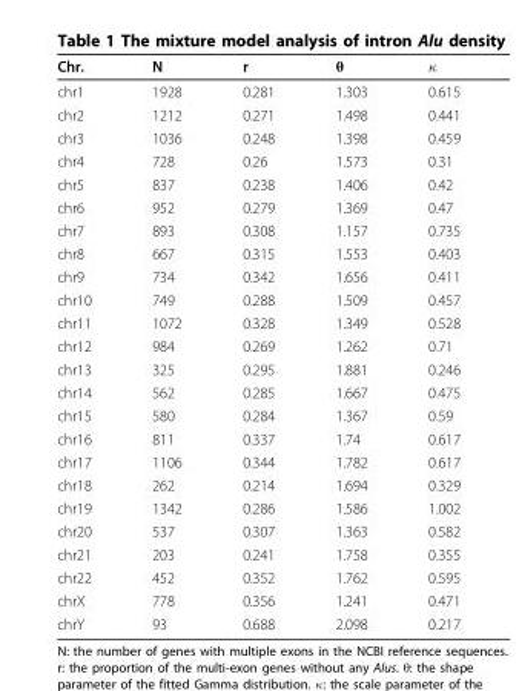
<table><thead><tr><td>Chr.</td><td>N</td><td>r</td><td>θ</td><td>κ</td></tr></thead><tbody><tr><td>chr1</td><td>1928</td><td>0.281</td><td>1.303</td><td>0.615</td></tr><tr><td>chr2</td><td>1212</td><td>0.271</td><td>1.498</td><td>0.441</td></tr><tr><td>chr3</td><td>1036</td><td>0.248</td><td>1.398</td><td>0.459</td></tr><tr><td>chr4</td><td>728</td><td>0.26</td><td>1.573</td><td>0.31</td></tr><tr><td>chr5</td><td>837</td><td>0.238</td><td>1.406</td><td>0.42</td></tr><tr><td>chr6</td><td>952</td><td>0.279</td><td>1.369</td><td>0.47</td></tr><tr><td>chr7</td><td>893</td><td>0.308</td><td>1.157</td><td>0.735</td></tr><tr><td>chr8</td><td>667</td><td>0.315</td><td>1.553</td><td>0.403</td></tr><tr><td>chr9</td><td>734</td><td>0.342</td><td>1.656</td><td>0.411</td></tr><tr><td>chr10</td><td>749</td><td>0.288</td><td>1.509</td><td>0.457</td></tr><tr><td>chr11</td><td>1072</td><td>0.328</td><td>1.349</td><td>0.528</td></tr><tr><td>chr12</td><td>984</td><td>0.269</td><td>1.262</td><td>0.71</td></tr><tr><td>chr13</td><td>325</td><td>0.295</td><td>1.881</td><td>0.246</td></tr><tr><td>chr14</td><td>562</td><td>0.285</td><td>1.667</td><td>0.475</td></tr><tr><td>chr15</td><td>580</td><td>0.284</td><td>1.367</td><td>0.59</td></tr><tr><td>chr16</td><td>811</td><td>0.337</td><td>1.74</td><td>0.617</td></tr><tr><td>chr17</td><td>1106</td><td>0.344</td><td>1.782</td><td>0.617</td></tr><tr><td>chr18</td><td>262</td><td>0.214</td><td>1.694</td><td>0.329</td></tr><tr><td>chr19</td><td>1342</td><td>0.286</td><td>1.586</td><td>1.002</td></tr><tr><td>chr20</td><td>537</td><td>0.307</td><td>1.363</td><td>0.582</td></tr><tr><td>chr21</td><td>203</td><td>0.241</td><td>1.758</td><td>0.355</td></tr><tr><td>chr22</td><td>452</td><td>0.352</td><td>1.762</td><td>0.595</td></tr><tr><td>chrX</td><td>778</td><td>0.356</td><td>1.241</td><td>0.471</td></tr><tr><td>chrY</td><td>93</td><td>0.688</td><td>2.098</td><td>0.217</td></tr></tbody></table>